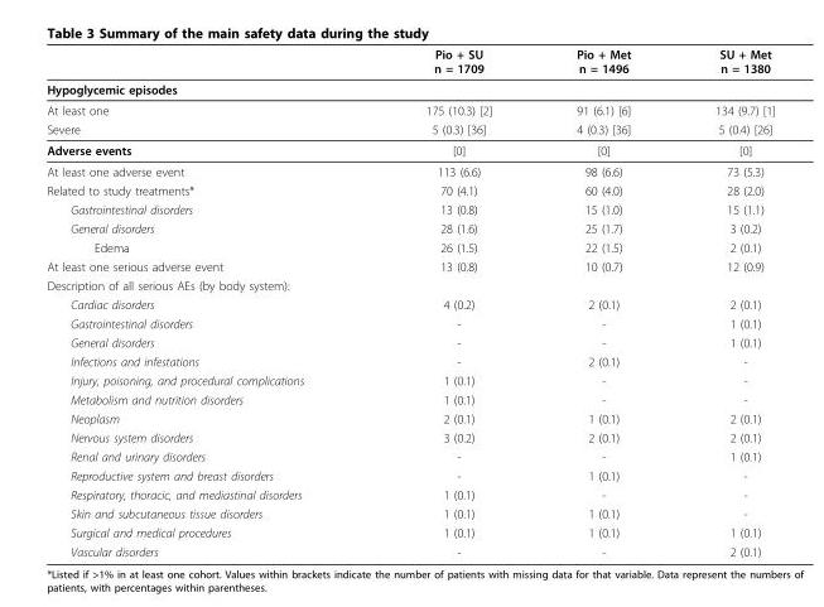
<table><thead><tr><td></td><td>Pio + SU n = 1709</td><td>Pio + Met n = 1496</td><td>SU + Met n = 1380</td></tr></thead><tbody><tr><td colspan="4">Hypoglycemic episodes</td></tr><tr><td>At least one</td><td>175 (10.3) [2]</td><td>91 (6.1) [6]</td><td>134 (9.7) [1]</td></tr><tr><td>Severe</td><td>5 (0.3) [36]</td><td>4 (0.3) [36]</td><td>5 (0.4) [26]</td></tr><tr><td>Adverse events</td><td>[0]</td><td>[0]</td><td>[0]</td></tr><tr><td>At least one adverse event</td><td>113 (6.6)</td><td>98 (6.6)</td><td>73 (5.3)</td></tr><tr><td>Related to study treatments*</td><td>70 (4.1)</td><td>60 (4.0)</td><td>28 (2.0)</td></tr><tr><td>Gastrointestinal disorders</td><td>13 (0.8)</td><td>15 (1.0)</td><td>15 (1.1)</td></tr><tr><td>General disorders</td><td>28 (1.6)</td><td>25 (1.7)</td><td>3 (0.2)</td></tr><tr><td>Edema</td><td>26 (1.5)</td><td>22 (1.5)</td><td>2 (0.1)</td></tr><tr><td>At least one serious adverse event</td><td>13 (0.8)</td><td>10 (0.7)</td><td>12 (0.9)</td></tr><tr><td colspan="4">Description of all serious AEs (by body system):</td></tr><tr><td>Cardiac disorders</td><td>4 (0.2)</td><td>2 (0.1)</td><td>2 (0.1)</td></tr><tr><td>Gastrointestinal disorders</td><td>-</td><td>-</td><td>1 (0.1)</td></tr><tr><td>General disorders</td><td>-</td><td>-</td><td>1 (0.1)</td></tr><tr><td>Infections and infestations</td><td>-</td><td>2 (0.1)</td><td>-</td></tr><tr><td>Injury, poisoning, and procedural complications</td><td>1 (0.1)</td><td>-</td><td>-</td></tr><tr><td>Metabolism and nutrition disorders</td><td>1 (0.1)</td><td>-</td><td>-</td></tr><tr><td>Neoplasm</td><td>2 (0.1)</td><td>1 (0.1)</td><td>2 (0.1)</td></tr><tr><td>Nervous system disorders</td><td>3 (0.2)</td><td>2 (0.1)</td><td>2 (0.1)</td></tr><tr><td>Renal and urinary disorders</td><td>-</td><td>-</td><td>1 (0.1)</td></tr><tr><td>Reproductive system and breast disorders</td><td>-</td><td>1 (0.1)</td><td>-</td></tr><tr><td>Respiratory, thoracic, and mediastinal disorders</td><td>1 (0.1)</td><td>-</td><td>-</td></tr><tr><td>Skin and subcutaneous tissue disorders</td><td>1 (0.1)</td><td>1 (0.1)</td><td>-</td></tr><tr><td>Surgical and medical procedures</td><td>1 (0.1)</td><td>1 (0.1)</td><td>1 (0.1)</td></tr><tr><td>Vascular disorders</td><td>-</td><td>-</td><td>2 (0.1)</td></tr></tbody></table>